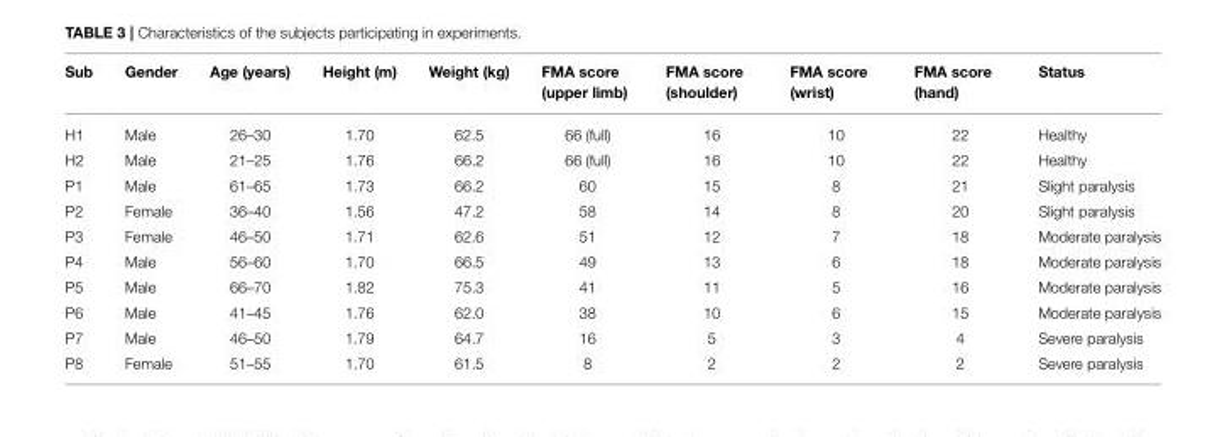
<table><thead><tr><td>Sub</td><td>Gender</td><td>Age (years)</td><td>Height (m)</td><td>Weight (kg)</td><td>FMA score (upper limb)</td><td>FMA score (shoulder)</td><td>FMA score (wrist)</td><td>FMA score (hand)</td><td>Status</td></tr></thead><tbody><tr><td>H1</td><td>Male</td><td>26–30</td><td>1.70</td><td>62.5</td><td>66 (full)</td><td>16</td><td>10</td><td>22</td><td>Healthy</td></tr><tr><td>H2</td><td>Male</td><td>21–25</td><td>1.76</td><td>66.2</td><td>66 (full)</td><td>16</td><td>10</td><td>22</td><td>Healthy</td></tr><tr><td>P1</td><td>Male</td><td>61–65</td><td>1.73</td><td>66.2</td><td>60</td><td>15</td><td>8</td><td>21</td><td>Slight paralysis</td></tr><tr><td>P2</td><td>Female</td><td>36–40</td><td>1.56</td><td>47.2</td><td>58</td><td>14</td><td>8</td><td>20</td><td>Slight paralysis</td></tr><tr><td>P3</td><td>Female</td><td>46–50</td><td>1.71</td><td>62.6</td><td>51</td><td>12</td><td>7</td><td>18</td><td>Moderate paralysis</td></tr><tr><td>P4</td><td>Male</td><td>56–60</td><td>1.70</td><td>66.5</td><td>49</td><td>13</td><td>6</td><td>18</td><td>Moderate paralysis</td></tr><tr><td>P5</td><td>Male</td><td>66–70</td><td>1.82</td><td>75.3</td><td>41</td><td>11</td><td>5</td><td>16</td><td>Moderate paralysis</td></tr><tr><td>P6</td><td>Male</td><td>41–45</td><td>1.76</td><td>62.0</td><td>38</td><td>10</td><td>6</td><td>15</td><td>Moderate paralysis</td></tr><tr><td>P7</td><td>Male</td><td>46–50</td><td>1.79</td><td>64.7</td><td>16</td><td>5</td><td>3</td><td>4</td><td>Severe paralysis</td></tr><tr><td>P8</td><td>Female</td><td>51–55</td><td>1.70</td><td>61.5</td><td>8</td><td>2</td><td>2</td><td>2</td><td>Severe paralysis</td></tr></tbody></table>